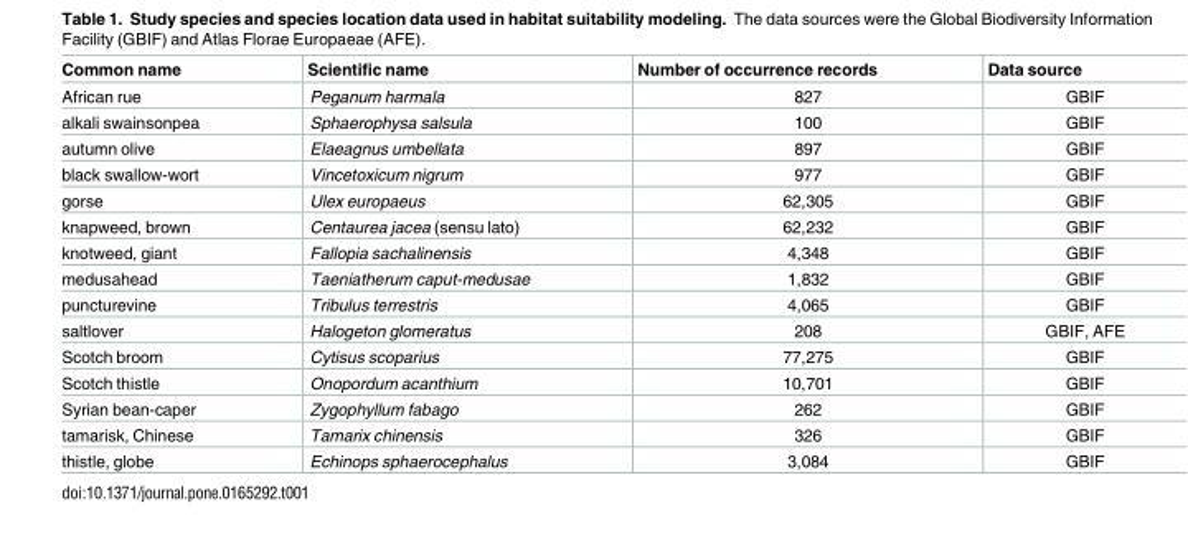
<table><thead><tr><td>Common name</td><td>Scientific name</td><td>Number of occurrence records</td><td>Data source</td></tr></thead><tbody><tr><td>African rue</td><td>Peganum harmala</td><td>827</td><td>GBIF</td></tr><tr><td>alkali swainsonpea</td><td>Sphaerophysa salsula</td><td>100</td><td>GBIF</td></tr><tr><td>autumn olive</td><td>Elaeagnus umbellata</td><td>897</td><td>GBIF</td></tr><tr><td>black swallow-wort</td><td>Vincetoxicum nigrum</td><td>977</td><td>GBIF</td></tr><tr><td>gorse</td><td>Ulex europaeus</td><td>62,305</td><td>GBIF</td></tr><tr><td>knapweed, brown</td><td>Centaurea jacea (sensu lato)</td><td>62,232</td><td>GBIF</td></tr><tr><td>knotweed, giant</td><td>Fallopia sachalinensis</td><td>4,348</td><td>GBIF</td></tr><tr><td>medusahead</td><td>Taeniatherum caput-medusae</td><td>1,832</td><td>GBIF</td></tr><tr><td>puncturevine</td><td>Tribulus terrestris</td><td>4,065</td><td>GBIF</td></tr><tr><td>saltlover</td><td>Halogeton glomeratus</td><td>208</td><td>GBIF, AFE</td></tr><tr><td>Scotch broom</td><td>Cytisus scoparius</td><td>77,275</td><td>GBIF</td></tr><tr><td>Scotch thistle</td><td>Onopordum acanthium</td><td>10,701</td><td>GBIF</td></tr><tr><td>Syrian bean-caper</td><td>Zygophyllum fabago</td><td>262</td><td>GBIF</td></tr><tr><td>tamarisk, Chinese</td><td>Tamarix chinensis</td><td>326</td><td>GBIF</td></tr><tr><td>thistle, globe</td><td>Echinops sphaerocephalus</td><td>3,084</td><td>GBIF</td></tr></tbody></table>